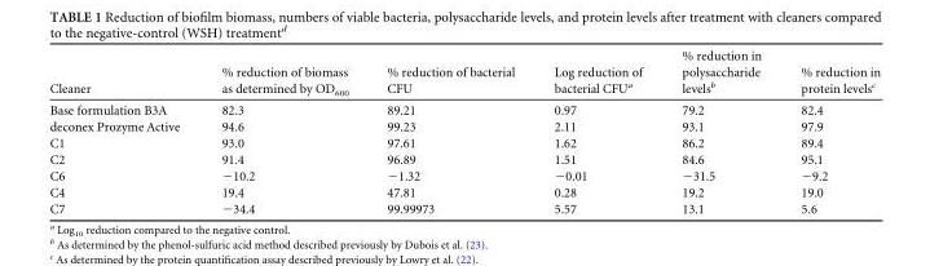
<table><thead><tr><td>Cleaner</td><td>% reduction of biomass as determined by OD<sub>600</sub></td><td>% reduction of bacterial CFU</td><td>Log reduction of bacterial CFU<sup>a</sup></td><td>% reduction in polysaccharide levels<sup>b</sup></td><td>% reduction in protein levels<sup>c</sup></td></tr></thead><tbody><tr><td>Base formulation B3A</td><td>82.3</td><td>89.21</td><td>0.97</td><td>79.2</td><td>82.4</td></tr><tr><td>deconex Prozyme Active</td><td>94.6</td><td>99.23</td><td>2.11</td><td>93.1</td><td>97.9</td></tr><tr><td>C1</td><td>93.0</td><td>97.61</td><td>1.62</td><td>86.2</td><td>89.4</td></tr><tr><td>C2</td><td>91.4</td><td>96.89</td><td>1.51</td><td>84.6</td><td>95.1</td></tr><tr><td>C6</td><td>−10.2</td><td>−1.32</td><td>−0.01</td><td>−31.5</td><td>−9.2</td></tr><tr><td>C4</td><td>19.4</td><td>47.81</td><td>0.28</td><td>19.2</td><td>19.0</td></tr><tr><td>C7</td><td>−34.4</td><td>99.99973</td><td>5.57</td><td>13.1</td><td>5.6</td></tr></tbody></table>